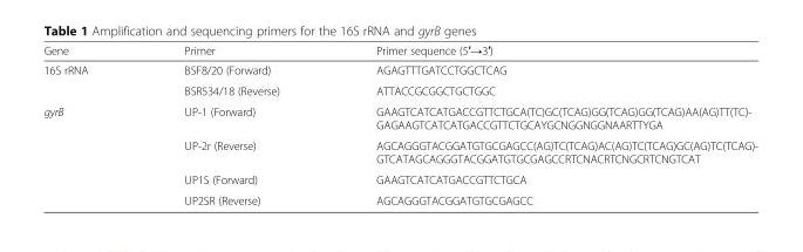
<table><thead><tr><td>Gene</td><td>Primer</td><td>Primer sequence (5′→3′)</td></tr></thead><tbody><tr><td rowspan="2">16S rRNA</td><td>BSF8/20 (Forward)</td><td>AGAGTTTGATCCTGGCTCAG</td></tr><tr><td>BSR534/18 (Reverse)</td><td>ATTACCGCGGCTGCTGGC</td></tr><tr><td rowspan="4">gyrB</td><td>UP-1 (Forward)</td><td>GAAGTCATCATGACCGTTCTGCA(TC)GC(TCAG)GG(TCAG)GG(TCAG)AA(AG)TT(TC)- GAGAAGTCATCATGACCGTTCTGCAYGCNGGNGGNAARTTYGA</td></tr><tr><td>UP-2r (Reverse)</td><td>AGCAGGGTACGGATGTGCGAGCC(AG)TC(TCAG)AC(AG)TC(TCAG)GC(AG)TC(TCAG)- GTCATAGCAGGGTACGGATGTGCGAGCCRTCNACRTCNGCRTCNGTCAT</td></tr><tr><td>UP1S (Forward)</td><td>GAAGTCATCATGACCGTTCTGCA</td></tr><tr><td>UP2SR (Reverse)</td><td>AGCAGGGTACGGATGTGCGAGCC</td></tr></tbody></table>